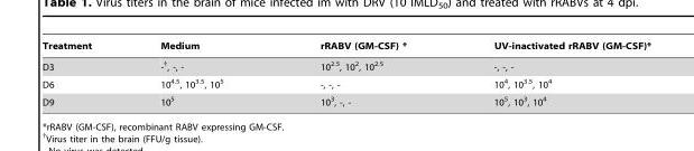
<table><thead><tr><td>Treatment</td><td>Medium</td><td>rRABV (GM-CSF) *</td><td>UV-inactivated rRABV (GM-CSF)*</td></tr></thead><tbody><tr><td>D3</td><td>-†, -, -</td><td>10<sup>2.5</sup>, 10<sup>2</sup>, 10<sup>2.5</sup></td><td>-, -, -</td></tr><tr><td>D6</td><td>10<sup>4.5</sup>, 10<sup>3.5</sup>, 10<sup>5</sup></td><td>-, -, -</td><td>10<sup>4</sup>, 10<sup>3.5</sup>, 10<sup>4</sup></td></tr><tr><td>D9</td><td>10<sup>5</sup></td><td>10<sup>3</sup>, -, -</td><td>10<sup>5</sup>, 10<sup>3</sup>, 10<sup>4</sup></td></tr></tbody></table>